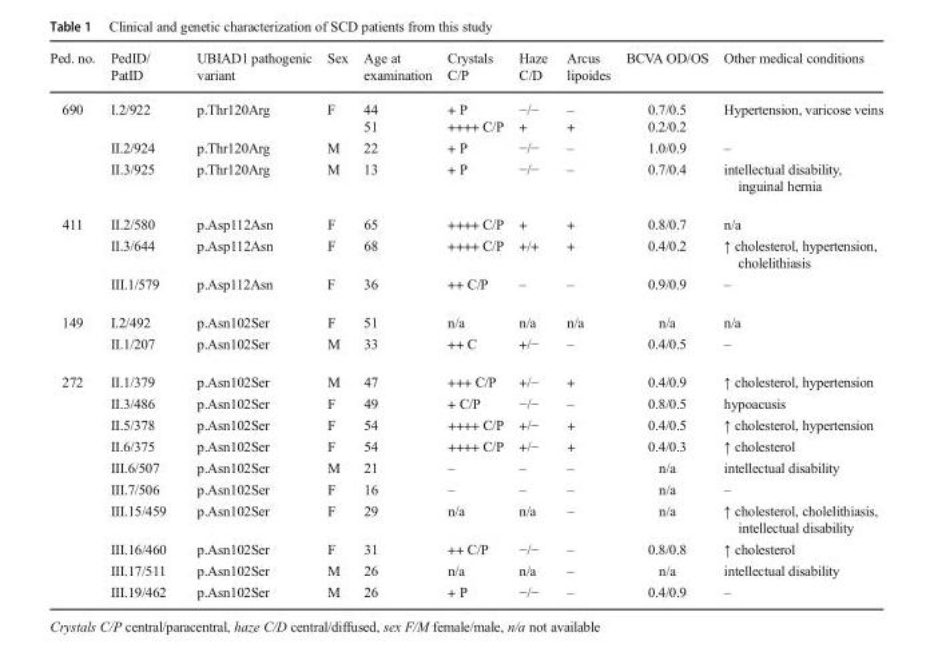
<table><thead><tr><td>Ped. no.</td><td>PedID/ PatID</td><td>UBIAD1 pathogenic variant</td><td>Sex</td><td>Age at examination</td><td>Crystals C/P</td><td>Haze C/D</td><td>Arcus lipoides</td><td>BCVA OD/OS</td><td>Other medical conditions</td></tr></thead><tbody><tr><td rowspan="4">690</td><td>I.2/922</td><td>p.Thr120Arg</td><td>F</td><td>44</td><td>+ P</td><td>−/−</td><td>–</td><td>0.7/0.5</td><td rowspan="2">Hypertension, varicose veins</td></tr><tr><td></td><td></td><td></td><td>51</td><td>++++ C/P</td><td>+</td><td>+</td><td>0.2/0.2</td></tr><tr><td>II.2/924</td><td>p.Thr120Arg</td><td>M</td><td>22</td><td>+ P</td><td>−/−</td><td>–</td><td>1.0/0.9</td><td>–</td></tr><tr><td>II.3/925</td><td>p.Thr120Arg</td><td>M</td><td>13</td><td>+ P</td><td>−/−</td><td>–</td><td>0.7/0.4</td><td>intellectual disability, inguinal hernia</td></tr><tr><td rowspan="3">411</td><td>II.2/580</td><td>p.Asp112Asn</td><td>F</td><td>65</td><td>++++ C/P</td><td>+</td><td>+</td><td>0.8/0.7</td><td>n/a</td></tr><tr><td>II.3/644</td><td>p.Asp112Asn</td><td>F</td><td>68</td><td>++++ C/P</td><td>+/+</td><td>+</td><td>0.4/0.2</td><td>↑ cholesterol, hypertension, cholelithiasis</td></tr><tr><td>III.1/579</td><td>p.Asp112Asn</td><td>F</td><td>36</td><td>++ C/P</td><td>–</td><td>–</td><td>0.9/0.9</td><td>–</td></tr><tr><td rowspan="2">149</td><td>I.2/492</td><td>p.Asn102Ser</td><td>F</td><td>51</td><td>n/a</td><td>n/a</td><td>n/a</td><td>n/a</td><td>n/a</td></tr><tr><td>II.1/207</td><td>p.Asn102Ser</td><td>M</td><td>33</td><td>++ C</td><td>+/−</td><td>–</td><td>0.4/0.5</td><td>–</td></tr><tr><td rowspan="10">272</td><td>II.1/379</td><td>p.Asn102Ser</td><td>M</td><td>47</td><td>+++ C/P</td><td>+/−</td><td>+</td><td>0.4/0.9</td><td>↑ cholesterol, hypertension</td></tr><tr><td>II.3/486</td><td>p.Asn102Ser</td><td>F</td><td>49</td><td>+ C/P</td><td>−/−</td><td>–</td><td>0.8/0.5</td><td>hypoacusis</td></tr><tr><td>II.5/378</td><td>p.Asn102Ser</td><td>F</td><td>54</td><td>++++ C/P</td><td>+/−</td><td>+</td><td>0.4/0.5</td><td>↑ cholesterol, hypertension</td></tr><tr><td>II.6/375</td><td>p.Asn102Ser</td><td>F</td><td>54</td><td>++++ C/P</td><td>+/−</td><td>+</td><td>0.4/0.3</td><td>↑ cholesterol</td></tr><tr><td>III.6/507</td><td>p.Asn102Ser</td><td>M</td><td>21</td><td>–</td><td>–</td><td>–</td><td>n/a</td><td>intellectual disability</td></tr><tr><td>III.7/506</td><td>p.Asn102Ser</td><td>F</td><td>16</td><td>–</td><td>–</td><td>–</td><td>n/a</td><td>–</td></tr><tr><td>III.15/459</td><td>p.Asn102Ser</td><td>F</td><td>29</td><td>n/a</td><td>n/a</td><td>–</td><td>n/a</td><td>↑ cholesterol, cholelithiasis, intellectual disability</td></tr><tr><td>III.16/460</td><td>p.Asn102Ser</td><td>F</td><td>31</td><td>++ C/P</td><td>−/−</td><td>–</td><td>0.8/0.8</td><td>↑ cholesterol</td></tr><tr><td>III.17/511</td><td>p.Asn102Ser</td><td>M</td><td>26</td><td>n/a</td><td>n/a</td><td>–</td><td>n/a</td><td>intellectual disability</td></tr><tr><td>III.19/462</td><td>p.Asn102Ser</td><td>M</td><td>26</td><td>+ P</td><td>−/−</td><td>–</td><td>0.4/0.9</td><td>–</td></tr></tbody></table>